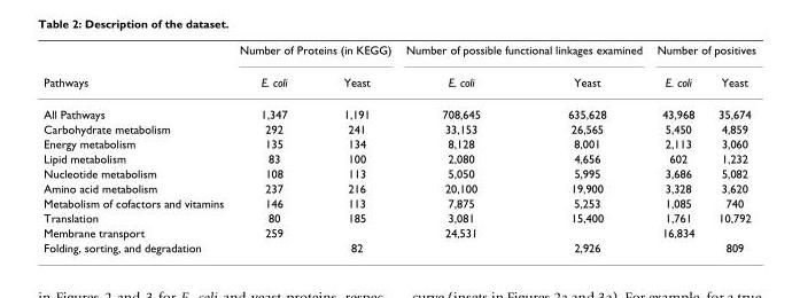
<table><thead><tr><td rowspan="2">Pathways</td><td colspan="2">Number of Proteins (in KEGG)</td><td colspan="2">Number of possible functional linkages examined</td><td colspan="2">Number of positives</td></tr><tr><td>E. coli</td><td>Yeast</td><td>E. coli</td><td>Yeast</td><td>E. coli</td><td>Yeast</td></tr></thead><tbody><tr><td>All Pathways</td><td>1,347</td><td>1,191</td><td>708,645</td><td>635,628</td><td>43,968</td><td>35,674</td></tr><tr><td>Carbohydrate metabolism</td><td>292</td><td>241</td><td>33,153</td><td>26,565</td><td>5,450</td><td>4,859</td></tr><tr><td>Energy metabolism</td><td>135</td><td>134</td><td>8,128</td><td>8,001</td><td>2,113</td><td>3,060</td></tr><tr><td>Lipid metabolism</td><td>83</td><td>100</td><td>2,080</td><td>4,656</td><td>602</td><td>1,232</td></tr><tr><td>Nucleotide metabolism</td><td>108</td><td>113</td><td>5,050</td><td>5,995</td><td>3,686</td><td>5,082</td></tr><tr><td>Amino acid metabolism</td><td>237</td><td>216</td><td>20,100</td><td>19,900</td><td>3,328</td><td>3,620</td></tr><tr><td>Metabolism of cofactors and vitamins</td><td>146</td><td>113</td><td>7,875</td><td>5,253</td><td>1,085</td><td>740</td></tr><tr><td>Translation</td><td>80</td><td>185</td><td>3,081</td><td>15,400</td><td>1,761</td><td>10,792</td></tr><tr><td>Membrane transport</td><td>259</td><td></td><td>24,531</td><td></td><td>16,834</td><td></td></tr><tr><td>Folding, sorting, and degradation</td><td></td><td>82</td><td></td><td>2,926</td><td></td><td>809</td></tr></tbody></table>